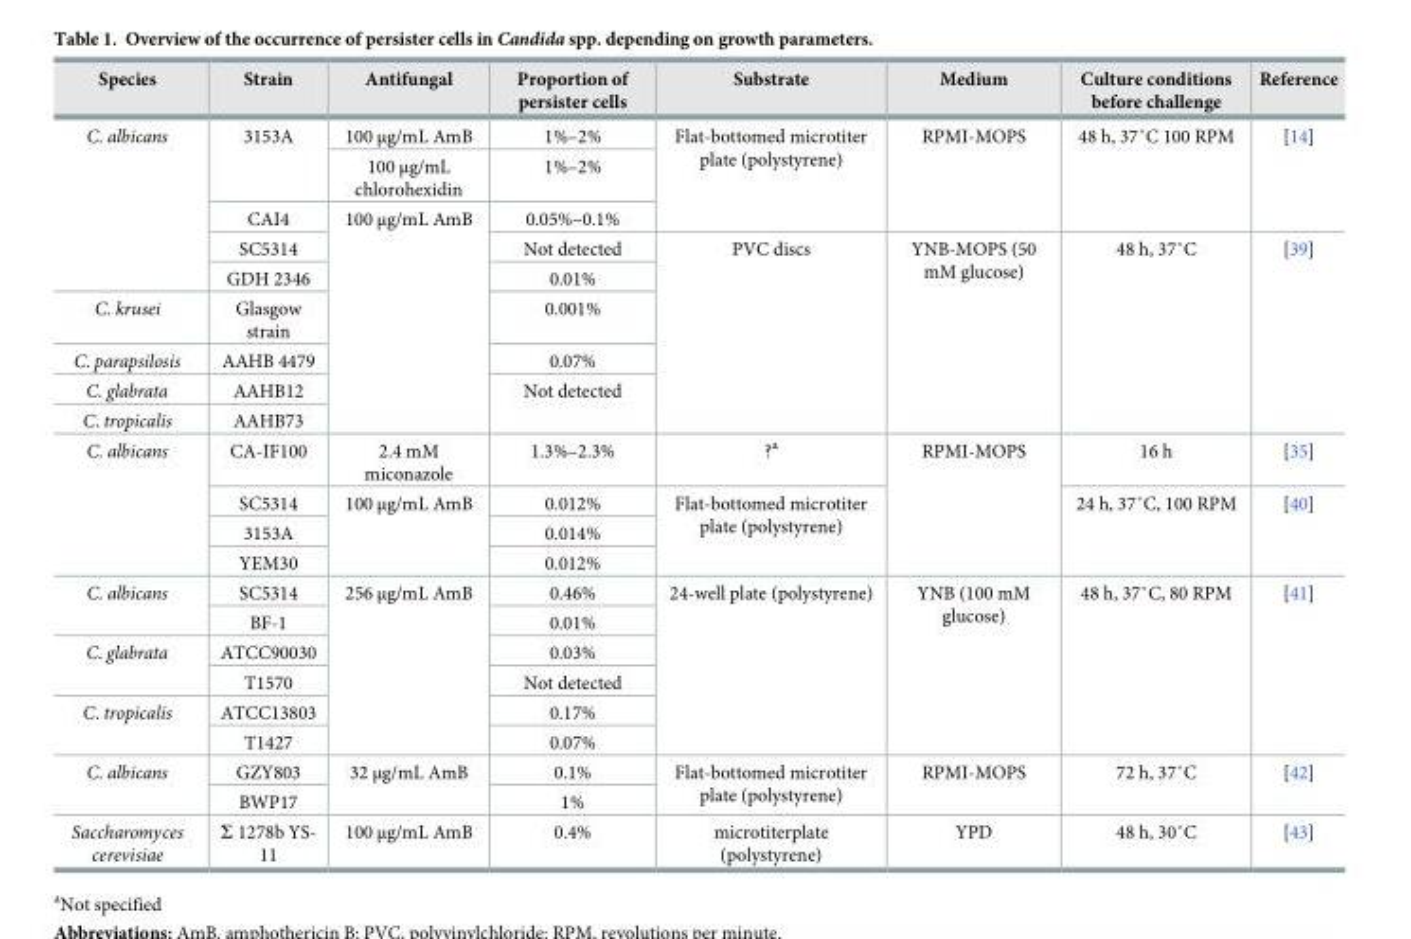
<table><thead><tr><td>Species</td><td>Strain</td><td>Antifungal</td><td>Proportion of persister cells</td><td>Substrate</td><td>Medium</td><td>Culture conditions before challenge</td><td>Reference</td></tr></thead><tbody><tr><td rowspan="5">C. albicans</td><td rowspan="2">3153A</td><td>100 μg/mL AmB</td><td>1%–2%</td><td rowspan="3">Flat-bottomed microtiter plate (polystyrene)</td><td rowspan="3">RPMI-MOPS</td><td rowspan="3">48 h, 37˚C 100 RPM</td><td rowspan="3">[14]</td></tr><tr><td>100 μg/mL chlorohexidin</td><td>1%–2%</td></tr><tr><td>CAI4</td><td rowspan="7">100 μg/mL AmB</td><td>0.05%–0.1%</td></tr><tr><td>SC5314</td><td>Not detected</td><td rowspan="6">PVC discs</td><td rowspan="6">YNB-MOPS (50 mM glucose)</td><td rowspan="6">48 h, 37˚C</td><td rowspan="6">[39]</td></tr><tr><td>GDH 2346</td><td>0.01%</td></tr><tr><td>C. krusei</td><td>Glasgow strain</td><td>0.001%</td></tr><tr><td>C. parapsilosis</td><td>AAHB 4479</td><td>0.07%</td></tr><tr><td>C. glabrata</td><td>AAHB12</td><td rowspan="2">Not detected</td></tr><tr><td>C. tropicalis</td><td>AAHB73</td></tr><tr><td rowspan="4">C. albicans</td><td>CA-IF100</td><td>2.4 mM miconazole</td><td>1.3%–2.3%</td><td>?<sup>a</sup></td><td rowspan="4">RPMI-MOPS</td><td>16 h</td><td>[35]</td></tr><tr><td>SC5314</td><td rowspan="3">100 μg/mL AmB</td><td>0.012%</td><td rowspan="3">Flat-bottomed microtiter plate (polystyrene)</td><td rowspan="3">24 h, 37˚C, 100 RPM</td><td rowspan="3">[40]</td></tr><tr><td>3153A</td><td>0.014%</td></tr><tr><td>YEM30</td><td>0.012%</td></tr><tr><td rowspan="2">C. albicans</td><td>SC5314</td><td rowspan="6">256 μg/mL AmB</td><td>0.46%</td><td rowspan="6">24-well plate (polystyrene)</td><td rowspan="6">YNB (100 mM glucose)</td><td rowspan="6">48 h, 37˚C, 80 RPM</td><td rowspan="6">[41]</td></tr><tr><td>BF-1</td><td>0.01%</td></tr><tr><td rowspan="2">C. glabrata</td><td>ATCC90030</td><td>0.03%</td></tr><tr><td>T1570</td><td>Not detected</td></tr><tr><td rowspan="2">C. tropicalis</td><td>ATCC13803</td><td>0.17%</td></tr><tr><td>T1427</td><td>0.07%</td></tr><tr><td rowspan="2">C. albicans</td><td>GZY803</td><td rowspan="2">32 μg/mL AmB</td><td>0.1%</td><td rowspan="2">Flat-bottomed microtiter plate (polystyrene)</td><td rowspan="2">RPMI-MOPS</td><td rowspan="2">72 h, 37˚C</td><td rowspan="2">[42]</td></tr><tr><td>BWP17</td><td>1%</td></tr><tr><td>Saccharomyces cerevisiae</td><td>Σ 1278b YS- 11</td><td>100 μg/mL AmB</td><td>0.4%</td><td>microtiterplate (polystyrene)</td><td>YPD</td><td>48 h, 30˚C</td><td>[43]</td></tr></tbody></table>